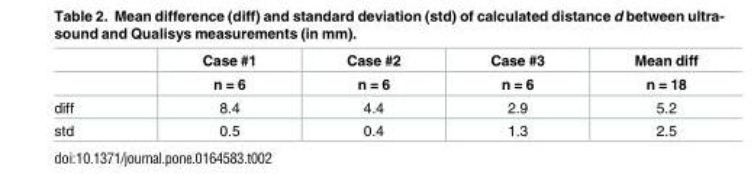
<table><thead><tr><td rowspan="2"></td><td rowspan="2">Case #1 n = 6</td><td rowspan="2">Case #2 n = 6</td><td rowspan="2">Case #3 n = 6</td><td rowspan="2">Mean diff n = 18</td></tr><tr></tr></thead><tbody><tr><td>diff</td><td>8.4</td><td>4.4</td><td>2.9</td><td>5.2</td></tr><tr><td>std</td><td>0.5</td><td>0.4</td><td>1.3</td><td>2.5</td></tr></tbody></table>